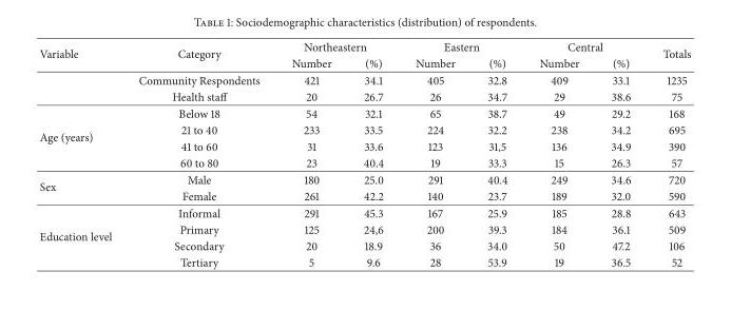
<table><thead><tr><td rowspan="2">Variable</td><td rowspan="2">Category</td><td colspan="2">Northeastern</td><td colspan="2">Eastern</td><td colspan="2">Central</td><td rowspan="2">Totals</td></tr><tr><td>Number</td><td>(%)</td><td>Number</td><td>(%)</td><td>Number</td><td>(%)</td></tr></thead><tbody><tr><td rowspan="2"></td><td>Community Respondents</td><td>421</td><td>34.1</td><td>405</td><td>32.8</td><td>409</td><td>33.1</td><td>1235</td></tr><tr><td>Health staff</td><td>20</td><td>26.7</td><td>26</td><td>34.7</td><td>29</td><td>38.6</td><td>75</td></tr><tr><td rowspan="4">Age (years)</td><td>Below 18</td><td>54</td><td>32.1</td><td>65</td><td>38.7</td><td>49</td><td>29.2</td><td>168</td></tr><tr><td>21 to 40</td><td>233</td><td>33.5</td><td>224</td><td>32.2</td><td>238</td><td>34.2</td><td>695</td></tr><tr><td>41 to 60</td><td>31</td><td>33.6</td><td>123</td><td>31,5</td><td>136</td><td>34.9</td><td>390</td></tr><tr><td>60 to 80</td><td>23</td><td>40.4</td><td>19</td><td>33.3</td><td>15</td><td>26.3</td><td>57</td></tr><tr><td rowspan="2">Sex</td><td>Male</td><td>180</td><td>25.0</td><td>291</td><td>40.4</td><td>249</td><td>34.6</td><td>720</td></tr><tr><td>Female</td><td>261</td><td>42.2</td><td>140</td><td>23.7</td><td>189</td><td>32.0</td><td>590</td></tr><tr><td rowspan="4">Education level</td><td>Informal</td><td>291</td><td>45.3</td><td>167</td><td>25.9</td><td>185</td><td>28.8</td><td>643</td></tr><tr><td>Primary</td><td>125</td><td>24,6</td><td>200</td><td>39.3</td><td>184</td><td>36.1</td><td>509</td></tr><tr><td>Secondary</td><td>20</td><td>18.9</td><td>36</td><td>34.0</td><td>50</td><td>47.2</td><td>106</td></tr><tr><td>Tertiary</td><td>5</td><td>9.6</td><td>28</td><td>53.9</td><td>19</td><td>36.5</td><td>52</td></tr></tbody></table>